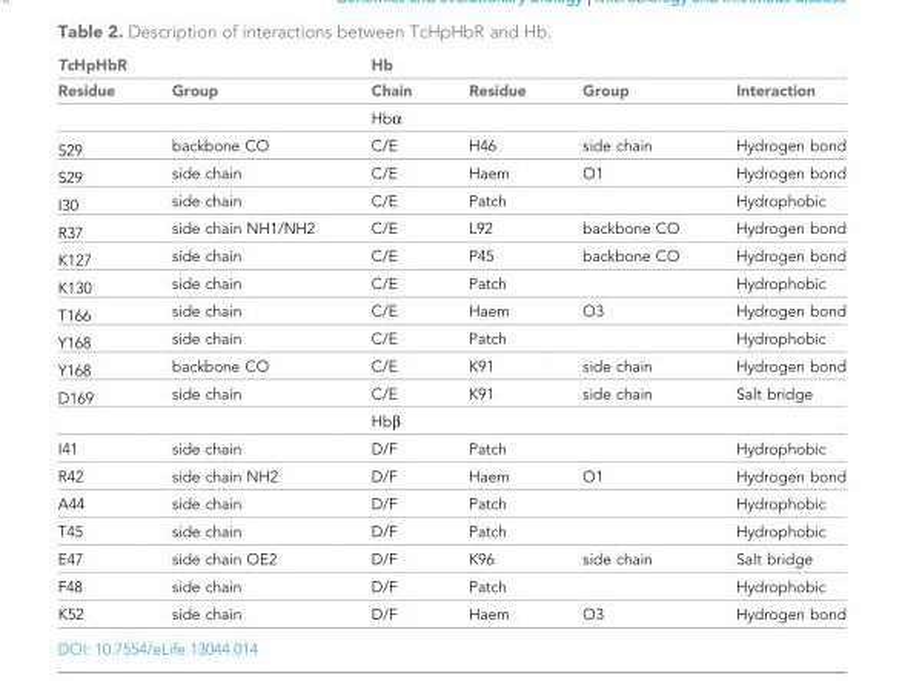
<table><thead><tr><td colspan="2">TcHpHbR</td><td colspan="3">Hb</td><td rowspan="2">Interaction</td></tr><tr><td>Residue</td><td>Group</td><td>Chain</td><td>Residue</td><td>Group</td></tr></thead><tbody><tr><td></td><td></td><td>Hbα</td><td></td><td></td><td></td></tr><tr><td>S29</td><td>backbone CO</td><td>C/E</td><td>H46</td><td>side chain</td><td>Hydrogen bond</td></tr><tr><td>S29</td><td>side chain</td><td>C/E</td><td>Haem</td><td>O1</td><td>Hydrogen bond</td></tr><tr><td>I30</td><td>side chain</td><td>C/E</td><td>Patch</td><td></td><td>Hydrophobic</td></tr><tr><td>R37</td><td>side chain NH1/NH2</td><td>C/E</td><td>L92</td><td>backbone CO</td><td>Hydrogen bond</td></tr><tr><td>K127</td><td>side chain</td><td>C/E</td><td>P45</td><td>backbone CO</td><td>Hydrogen bond</td></tr><tr><td>K130</td><td>side chain</td><td>C/E</td><td>Patch</td><td></td><td>Hydrophobic</td></tr><tr><td>T166</td><td>side chain</td><td>C/E</td><td>Haem</td><td>O3</td><td>Hydrogen bond</td></tr><tr><td>Y168</td><td>side chain</td><td>C/E</td><td>Patch</td><td></td><td>Hydrophobic</td></tr><tr><td>Y168</td><td>backbone CO</td><td>C/E</td><td>K91</td><td>side chain</td><td>Hydrogen bond</td></tr><tr><td rowspan="2">D169</td><td>side chain</td><td>C/E</td><td>K91</td><td>side chain</td><td>Salt bridge</td></tr><tr><td></td><td>Hbβ</td><td></td><td></td><td></td></tr><tr><td>I41</td><td>side chain</td><td>D/F</td><td>Patch</td><td></td><td>Hydrophobic</td></tr><tr><td>R42</td><td>side chain NH2</td><td>D/F</td><td>Haem</td><td>O1</td><td>Hydrogen bond</td></tr><tr><td>A44</td><td>side chain</td><td>D/F</td><td>Patch</td><td></td><td>Hydrophobic</td></tr><tr><td>T45</td><td>side chain</td><td>D/F</td><td>Patch</td><td></td><td>Hydrophobic</td></tr><tr><td>E47</td><td>side chain OE2</td><td>D/F</td><td>K96</td><td>side chain</td><td>Salt bridge</td></tr><tr><td>F48</td><td>side chain</td><td>D/F</td><td>Patch</td><td></td><td>Hydrophobic</td></tr><tr><td>K52</td><td>side chain</td><td>D/F</td><td>Haem</td><td>O3</td><td>Hydrogen bond</td></tr></tbody></table>